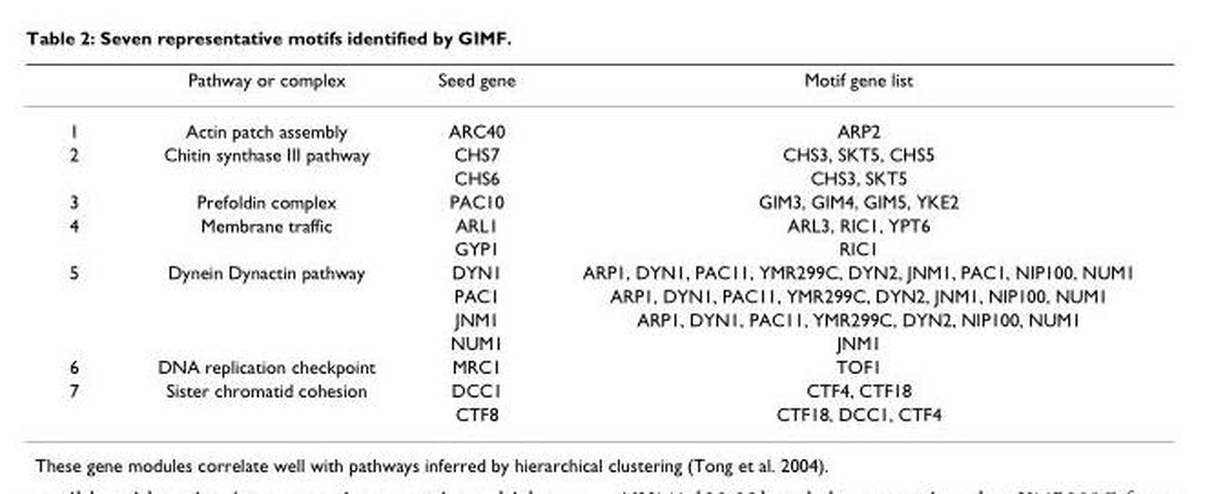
<table><thead><tr><td></td><td>Pathway or complex</td><td>Seed gene</td><td>Motif gene list</td></tr></thead><tbody><tr><td>1</td><td>Actin patch assembly</td><td>ARC40</td><td>ARP2</td></tr><tr><td rowspan="2">2</td><td>Chitin synthase III pathway</td><td>CHS7</td><td>CHS3, SKT5, CHS5</td></tr><tr><td></td><td>CHS6</td><td>CHS3, SKT5</td></tr><tr><td>3</td><td>Prefoldin complex</td><td>PAC10</td><td>GIM3, GIM4, GIM5, YKE2</td></tr><tr><td rowspan="2">4</td><td>Membrane traffic</td><td>ARL1</td><td>ARL3, RIC1, YPT6</td></tr><tr><td></td><td>GYP1</td><td>RIC1</td></tr><tr><td rowspan="4">5</td><td>Dynein Dynactin pathway</td><td>DYN1</td><td>ARP1, DYN1, PAC11, YMR299C, DYN2, JNM1, PAC1, NIP100, NUM1</td></tr><tr><td></td><td>PAC1</td><td>ARP1, DYN1, PAC11, YMR299C, DYN2, JNM1, NIP100, NUM1</td></tr><tr><td></td><td>JNM1</td><td>ARP1, DYN1, PAC11, YMR299C, DYN2, NIP100, NUM1</td></tr><tr><td></td><td>NUM1</td><td>JNM1</td></tr><tr><td>6</td><td>DNA replication checkpoint</td><td>MRC1</td><td>TOF1</td></tr><tr><td rowspan="2">7</td><td>Sister chromatid cohesion</td><td>DCC1</td><td>CTF4, CTF18</td></tr><tr><td></td><td>CTF8</td><td>CTF18, DCC1, CTF4</td></tr></tbody></table>